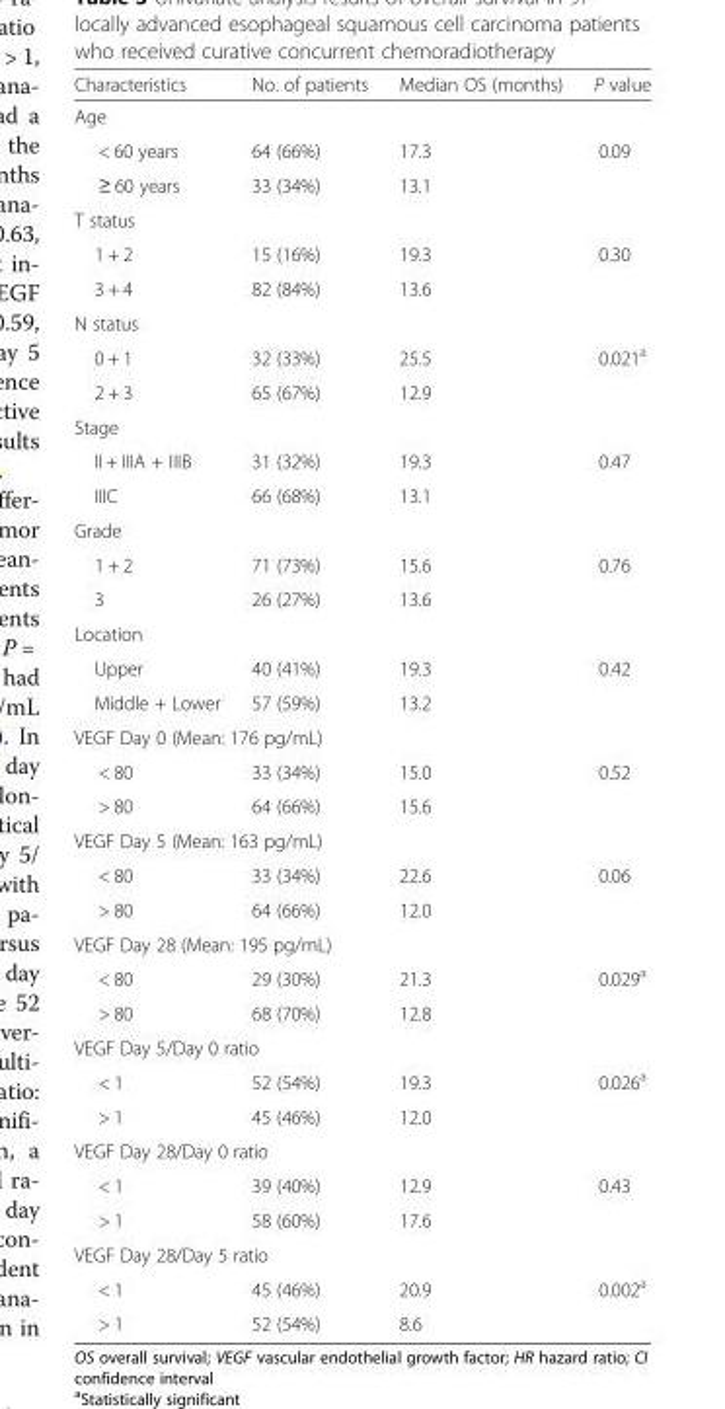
<table><thead><tr><td>Characteristics</td><td>No. of patients</td><td>Median OS (months)</td><td>P value</td></tr></thead><tbody><tr><td colspan="4">Age</td></tr><tr><td>&lt; 60 years</td><td>64 (66%)</td><td>17.3</td><td>0.09</td></tr><tr><td>≥ 60 years</td><td>33 (34%)</td><td>13.1</td><td></td></tr><tr><td colspan="4">T status</td></tr><tr><td>1 + 2</td><td>15 (16%)</td><td>19.3</td><td>0.30</td></tr><tr><td>3 + 4</td><td>82 (84%)</td><td>13.6</td><td></td></tr><tr><td colspan="4">N status</td></tr><tr><td>0 + 1</td><td>32 (33%)</td><td>25.5</td><td>0.021<sup>a</sup></td></tr><tr><td>2 + 3</td><td>65 (67%)</td><td>12.9</td><td></td></tr><tr><td colspan="4">Stage</td></tr><tr><td>II + IIIA + IIIB</td><td>31 (32%)</td><td>19.3</td><td>0.47</td></tr><tr><td>IIIC</td><td>66 (68%)</td><td>13.1</td><td></td></tr><tr><td colspan="4">Grade</td></tr><tr><td>1 + 2</td><td>71 (73%)</td><td>15.6</td><td>0.76</td></tr><tr><td>3</td><td>26 (27%)</td><td>13.6</td><td></td></tr><tr><td colspan="4">Location</td></tr><tr><td>Upper</td><td>40 (41%)</td><td>19.3</td><td>0.42</td></tr><tr><td>Middle + Lower</td><td>57 (59%)</td><td>13.2</td><td></td></tr><tr><td colspan="4">VEGF Day 0 (Mean: 176 pg/mL)</td></tr><tr><td>&lt; 80</td><td>33 (34%)</td><td>15.0</td><td>0.52</td></tr><tr><td>&gt; 80</td><td>64 (66%)</td><td>15.6</td><td></td></tr><tr><td colspan="4">VEGF Day 5 (Mean: 163 pg/mL)</td></tr><tr><td>&lt; 80</td><td>33 (34%)</td><td>22.6</td><td>0.06</td></tr><tr><td>&gt; 80</td><td>64 (66%)</td><td>12.0</td><td></td></tr><tr><td colspan="4">VEGF Day 28 (Mean: 195 pg/mL)</td></tr><tr><td>&lt; 80</td><td>29 (30%)</td><td>21.3</td><td>0.029<sup>a</sup></td></tr><tr><td>&gt; 80</td><td>68 (70%)</td><td>12.8</td><td></td></tr><tr><td colspan="4">VEGF Day 5/Day 0 ratio</td></tr><tr><td>&lt; 1</td><td>52 (54%)</td><td>19.3</td><td>0.026<sup>a</sup></td></tr><tr><td>&gt; 1</td><td>45 (46%)</td><td>12.0</td><td></td></tr><tr><td colspan="4">VEGF Day 28/Day 0 ratio</td></tr><tr><td>&lt; 1</td><td>39 (40%)</td><td>12.9</td><td>0.43</td></tr><tr><td>&gt; 1</td><td>58 (60%)</td><td>17.6</td><td></td></tr><tr><td colspan="4">VEGF Day 28/Day 5 ratio</td></tr><tr><td>&lt; 1</td><td>45 (46%)</td><td>20.9</td><td>0.002<sup>a</sup></td></tr><tr><td>&gt; 1</td><td>52 (54%)</td><td>8.6</td><td></td></tr></tbody></table>